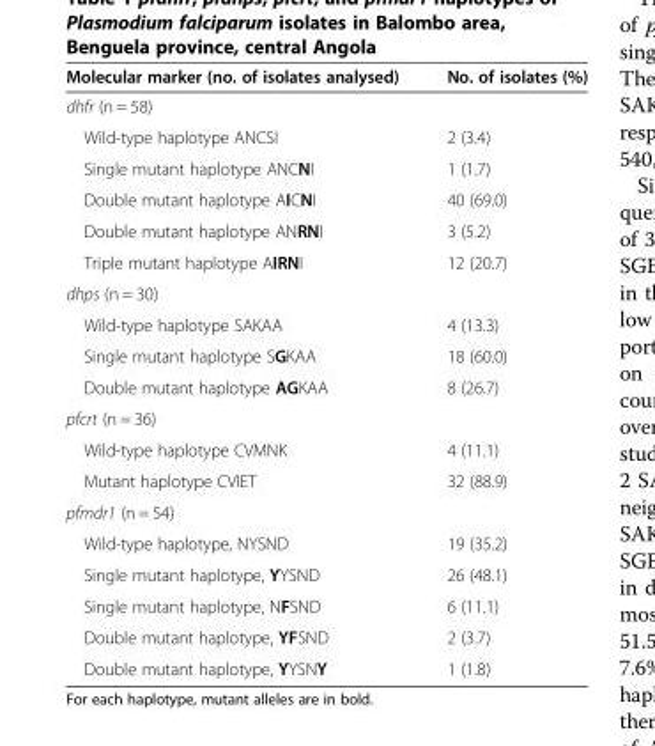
<table><thead><tr><td>Molecular marker (no. of isolates analysed)</td><td>No. of isolates (%)</td></tr></thead><tbody><tr><td colspan="2">dhfr (n = 58)</td></tr><tr><td>Wild-type haplotype ANCSI</td><td>2 (3.4)</td></tr><tr><td>Single mutant haplotype ANCNI</td><td>1 (1.7)</td></tr><tr><td>Double mutant haplotype AICNI</td><td>40 (69.0)</td></tr><tr><td>Double mutant haplotype ANRNI</td><td>3 (5.2)</td></tr><tr><td>Triple mutant haplotype AIRNI</td><td>12 (20.7)</td></tr><tr><td colspan="2">dhps (n = 30)</td></tr><tr><td>Wild-type haplotype SAKAA</td><td>4 (13.3)</td></tr><tr><td>Single mutant haplotype SGKAA</td><td>18 (60.0)</td></tr><tr><td>Double mutant haplotype AGKAA</td><td>8 (26.7)</td></tr><tr><td colspan="2">pfcrt (n = 36)</td></tr><tr><td>Wild-type haplotype CVMNK</td><td>4 (11.1)</td></tr><tr><td>Mutant haplotype CVIET</td><td>32 (88.9)</td></tr><tr><td colspan="2">pfmdr1 (n = 54)</td></tr><tr><td>Wild-type haplotype, NYSND</td><td>19 (35.2)</td></tr><tr><td>Single mutant haplotype, YYSND</td><td>26 (48.1)</td></tr><tr><td>Single mutant haplotype, NFSND</td><td>6 (11.1)</td></tr><tr><td>Double mutant haplotype, YFSND</td><td>2 (3.7)</td></tr><tr><td>Double mutant haplotype, YYSNY</td><td>1 (1.8)</td></tr></tbody></table>